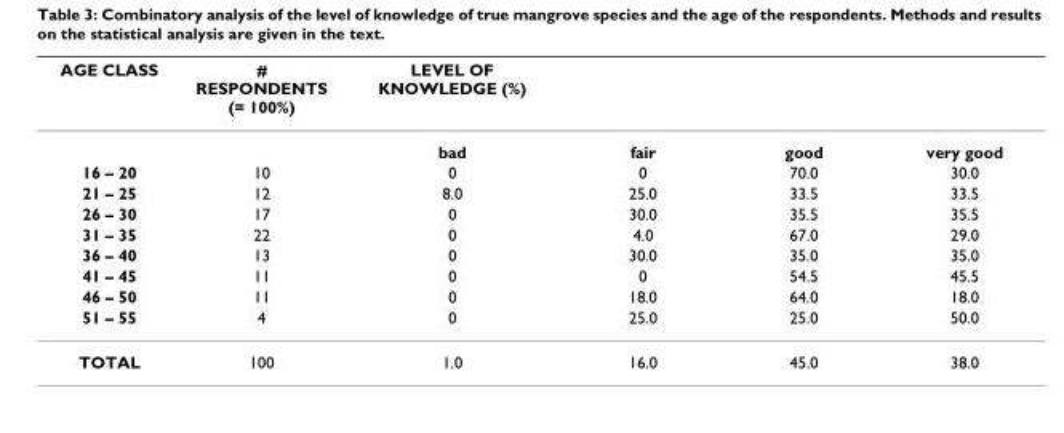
<table><thead><tr><td>AGE CLASS</td><td># RESPONDENTS (= 100%)</td><td>LEVEL OF KNOWLEDGE (%)</td><td></td><td></td><td></td></tr></thead><tbody><tr><td></td><td></td><td>bad</td><td>fair</td><td>good</td><td>very good</td></tr><tr><td>16 – 20</td><td>10</td><td>0</td><td>0</td><td>70.0</td><td>30.0</td></tr><tr><td>21 – 25</td><td>12</td><td>8.0</td><td>25.0</td><td>33.5</td><td>33.5</td></tr><tr><td>26 – 30</td><td>17</td><td>0</td><td>30.0</td><td>35.5</td><td>35.5</td></tr><tr><td>31 – 35</td><td>22</td><td>0</td><td>4.0</td><td>67.0</td><td>29.0</td></tr><tr><td>36 – 40</td><td>13</td><td>0</td><td>30.0</td><td>35.0</td><td>35.0</td></tr><tr><td>41 – 45</td><td>11</td><td>0</td><td>0</td><td>54.5</td><td>45.5</td></tr><tr><td>46 – 50</td><td>11</td><td>0</td><td>18.0</td><td>64.0</td><td>18.0</td></tr><tr><td>51 – 55</td><td>4</td><td>0</td><td>25.0</td><td>25.0</td><td>50.0</td></tr><tr><td>TOTAL</td><td>100</td><td>1.0</td><td>16.0</td><td>45.0</td><td>38.0</td></tr></tbody></table>